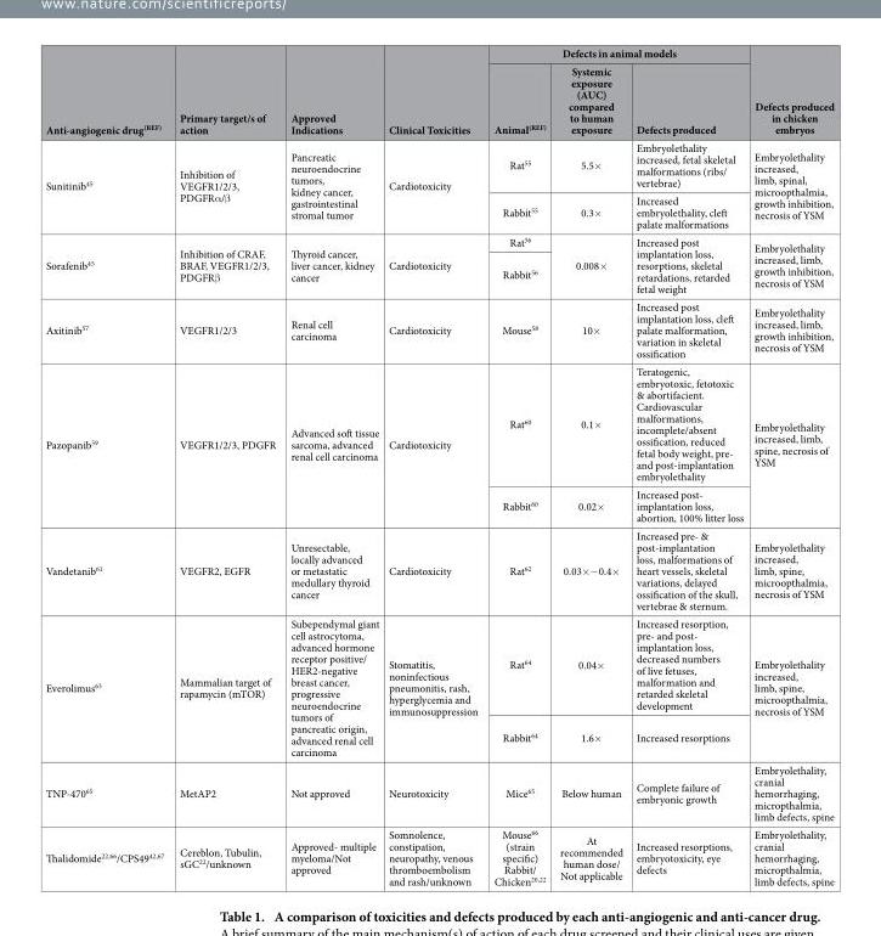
<table><thead><tr><td rowspan="2">Anti-angiogenic drug<sup>(REF)</sup></td><td rowspan="2">Primary target/s of action</td><td rowspan="2">Approved Indications</td><td rowspan="2">Clinical Toxicities</td><td colspan="3">Defects in animal models</td><td rowspan="2">Defects produced in chicken embryos</td></tr><tr><td>Animal<sup>(REF)</sup></td><td>Systemic exposure (AUC) compared to human exposure</td><td>Defects produced</td></tr></thead><tbody><tr><td rowspan="2">Sunitinib<sup>45</sup></td><td rowspan="2">Inhibition of VEGFR1/2/3, PDGFRα /β</td><td rowspan="2">Pancreatic neuroendocrine tumors, kidney cancer, gastrointestinal stromal tumor</td><td rowspan="2">Cardiotoxicity</td><td>Rat<sup>55</sup></td><td>5.5×</td><td>Embryolethality increased, fetal skeletal malformations (ribs/ vertebrae)</td><td rowspan="2">Embryolethality increased, limb, spinal, microopthalmia, growth inhibition, necrosis of YSM</td></tr><tr><td>Rabbit<sup>55</sup></td><td>0.3×</td><td>Increased embryolethality, cleft palate malformations</td></tr><tr><td rowspan="2">Sorafenib<sup>45</sup></td><td rowspan="2">Inhibition of CRAF, BRAF, VEGFR1/2/3, PDGFRβ</td><td rowspan="2">Thyroid cancer, liver cancer, kidney cancer</td><td rowspan="2">Cardiotoxicity</td><td>Rat<sup>56</sup></td><td rowspan="2">0.008×</td><td rowspan="2">Increased post implantation loss, resorptions, skeletal retardations, retarded fetal weight</td><td rowspan="2">Embryolethality increased, limb, growth inhibition, necrosis of YSM</td></tr><tr><td>Rabbit<sup>56</sup></td></tr><tr><td>Axitinib<sup>57</sup></td><td>VEGFR1/2/3</td><td>Renal cell carcinoma</td><td>Cardiotoxicity</td><td>Mouse<sup>58</sup></td><td>10×</td><td>Increased post implantation loss, cleft palate malformation, variation in skeletal ossification</td><td>Embryolethality increased, limb, growth inhibition, necrosis of YSM</td></tr><tr><td rowspan="2">Pazopanib<sup>59</sup></td><td rowspan="2">VEGFR1/2/3, PDGFR</td><td rowspan="2">Advanced soft tissue sarcoma, advanced renal cell carcinoma</td><td rowspan="2">Cardiotoxicity</td><td>Rat<sup>60</sup></td><td>0.1×</td><td>Teratogenic, embryotoxic, fetotoxic &amp; abortifacient. Cardiovascular malformations, incomplete/absent ossification, reduced fetal body weight, pre- and post-implantation embryolethality</td><td rowspan="2">Embryolethality increased, limb, spine, necrosis of YSM</td></tr><tr><td>Rabbit<sup>60</sup></td><td>0.02×</td><td>Increased post- implantation loss, abortion, 100% litter loss</td></tr><tr><td>Vandetanib<sup>61</sup></td><td>VEGFR2, EGFR</td><td>Unresectable, locally advanced or metastatic medullary thyroid cancer</td><td>Cardiotoxicity</td><td>Rat<sup>62</sup></td><td>0.03×−0.4×</td><td>Increased pre- &amp; post-implantation loss, malformations of heart vessels, skeletal variations, delayed ossification of the skull, vertebrae &amp; sternum.</td><td>Embryolethality increased, limb, spine, microopthalmia, necrosis of YSM</td></tr><tr><td rowspan="2">Everolimus<sup>63</sup></td><td rowspan="2">Mammalian target of rapamycin (mTOR)</td><td rowspan="2">Subependymal giant cell astrocytoma, advanced hormone receptor positive/ HER2-negative breast cancer, progressive neuroendocrine tumors of pancreatic origin, advanced renal cell carcinoma</td><td rowspan="2">Stomatitis, noninfectious pneumonitis, rash, hyperglycemia and immunosuppression</td><td>Rat<sup>64</sup></td><td>0.04×</td><td>Increased resorption, pre- and post- implantation loss, decreased numbers of live fetuses, malformation and retarded skeletal development</td><td rowspan="2">Embryolethality increased, limb, spine, microopthalmia, necrosis of YSM</td></tr><tr><td>Rabbit<sup>64</sup></td><td>1.6×</td><td>Increased resorptions</td></tr><tr><td>TNP-470<sup>65</sup></td><td>MetAP2</td><td>Not approved</td><td>Neurotoxicity</td><td>Mice<sup>65</sup></td><td>Below human</td><td>Complete failure of embryonic growth</td><td>Embryolethality, cranial hemorrhaging, micropthalmia, limb defects, spine</td></tr><tr><td>Thalidomide<sup>22</sup>,<sup>66</sup>/CPS49<sup>42</sup>,<sup>67</sup></td><td>Cereblon, Tubulin, sGC<sup>22</sup>/unknown</td><td>Approved- multiple myeloma/Not approved</td><td>Somnolence, constipation, neuropathy, venous thromboembolism and rash/unknown</td><td>Mouse<sup>66</sup> (strain specific) Rabbit/ Chicken<sup>20</sup>,<sup>22</sup></td><td>At recommended human dose/ Not applicable</td><td>Increased resorptions, embryotoxicity, eye defects</td><td>Embryolethality, cranial hemorrhaging, micropthalmia, limb defects, spine</td></tr></tbody></table>